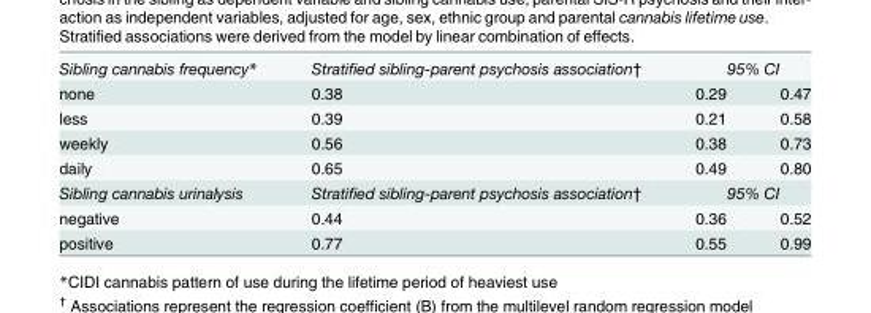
<table><tbody><tr><td>Sibling cannabis frequency*</td><td>Stratified sibling-parent psychosis association†</td><td colspan="2">95% CI</td></tr><tr><td>none</td><td>0.38</td><td>0.29</td><td>0.47</td></tr><tr><td>less</td><td>0.39</td><td>0.21</td><td>0.58</td></tr><tr><td>weekly</td><td>0.56</td><td>0.38</td><td>0.73</td></tr><tr><td>daily</td><td>0.65</td><td>0.49</td><td>0.80</td></tr><tr><td>Sibling cannabis urinalysis</td><td>Stratified sibling-parent psychosis association†</td><td colspan="2">95% CI</td></tr><tr><td>negative</td><td>0.44</td><td>0.36</td><td>0.52</td></tr><tr><td>positive</td><td>0.77</td><td>0.55</td><td>0.99</td></tr></tbody></table>